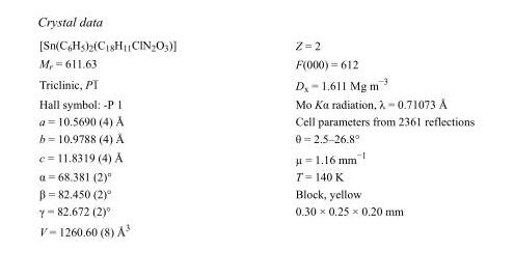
<table><tbody><tr><td>[Sn(C<sub>6</sub>H<sub>5</sub>)<sub>2</sub>(C<sub>18</sub>H<sub>11</sub>ClN<sub>2</sub>O<sub>3</sub>)]</td><td>Z = 2</td></tr><tr><td>M<sub>r</sub> = 611.63</td><td>F(000) = 612</td></tr><tr><td>Triclinic, P1</td><td>D<sub>x</sub> = 1.611 Mg m<sup>−3</sup></td></tr><tr><td>Hall symbol: -P 1</td><td>Mo Kα radiation, λ = 0.71073 Å</td></tr><tr><td>a = 10.5690 (4) Å</td><td>Cell parameters from 2361 reflections</td></tr><tr><td>b = 10.9788 (4) Å</td><td>θ = 2.5–26.8°</td></tr><tr><td>c = 11.8319 (4) Å</td><td>µ = 1.16 mm<sup>−1</sup></td></tr><tr><td>α = 68.381 (2)°</td><td>T = 140 K</td></tr><tr><td>β = 82.450 (2)°</td><td>Block, yellow</td></tr><tr><td>γ = 82.672 (2)°</td><td>0.30 × 0.25 × 0.20 mm</td></tr><tr><td>V = 1260.60 (8) Å<sup>3</sup></td><td></td></tr></tbody></table>